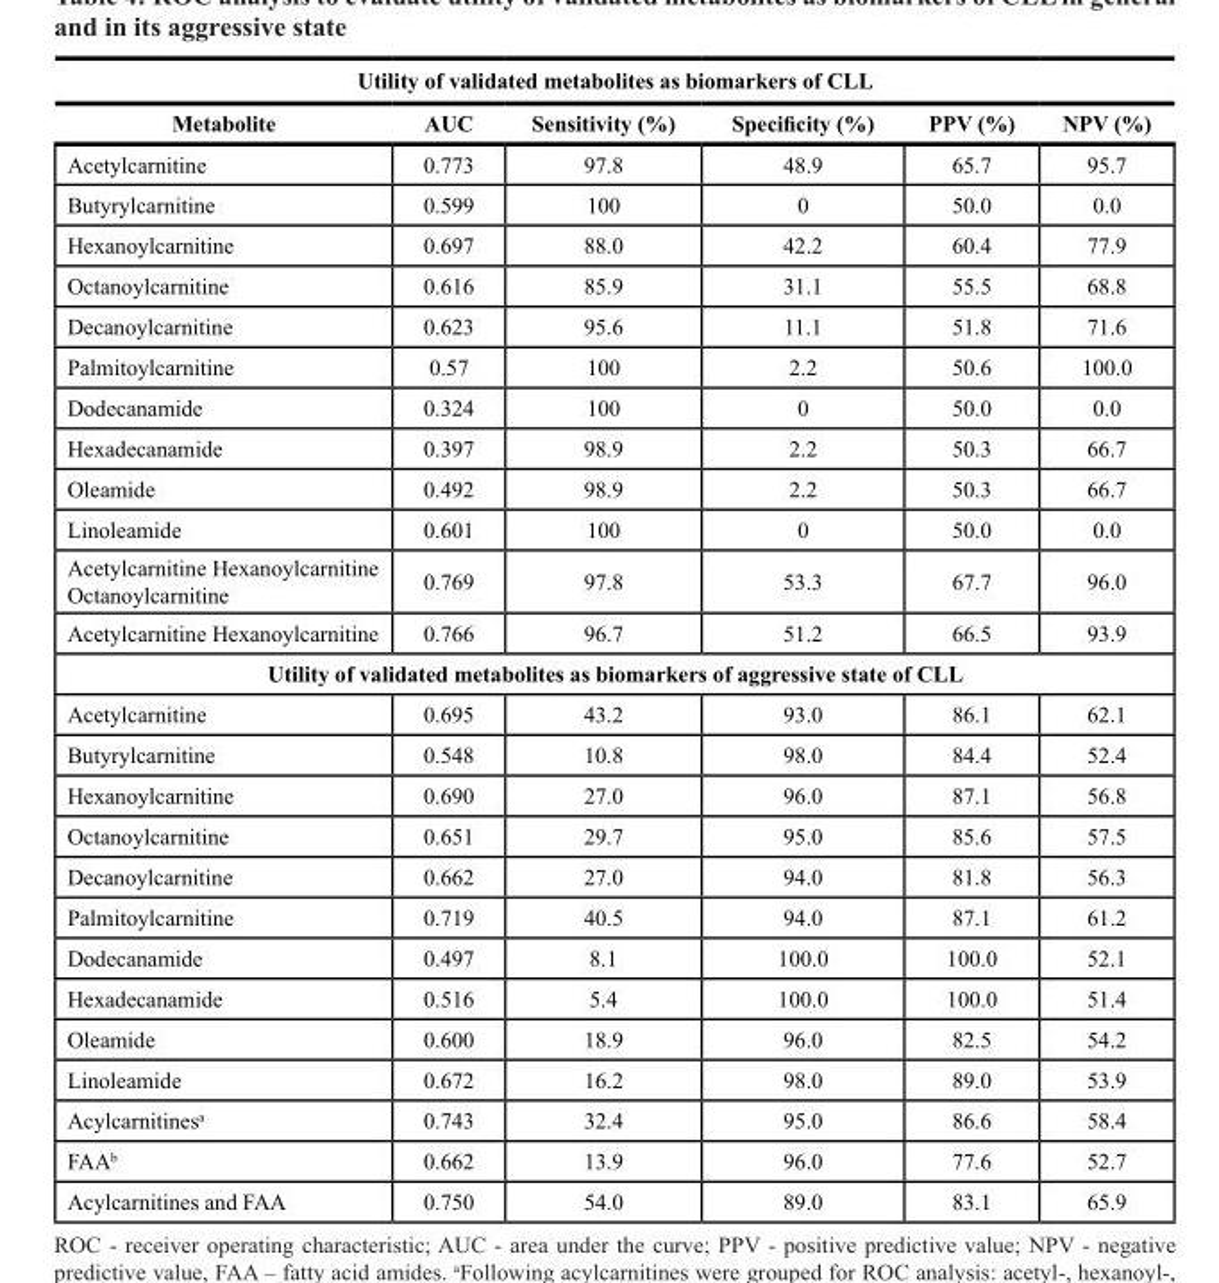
<table><thead><tr><td colspan="6">Utility of validated metabolites as biomarkers of CLL</td></tr><tr><td>Metabolite</td><td>AUC</td><td>Sensitivity (%)</td><td>Specificity (%)</td><td>PPV (%)</td><td>NPV (%)</td></tr></thead><tbody><tr><td>Acetylcarnitine</td><td>0.773</td><td>97.8</td><td>48.9</td><td>65.7</td><td>95.7</td></tr><tr><td>Butyrylcarnitine</td><td>0.599</td><td>100</td><td>0</td><td>50.0</td><td>0.0</td></tr><tr><td>Hexanoylcarnitine</td><td>0.697</td><td>88.0</td><td>42.2</td><td>60.4</td><td>77.9</td></tr><tr><td>Octanoylcarnitine</td><td>0.616</td><td>85.9</td><td>31.1</td><td>55.5</td><td>68.8</td></tr><tr><td>Decanoylcarnitine</td><td>0.623</td><td>95.6</td><td>11.1</td><td>51.8</td><td>71.6</td></tr><tr><td>Palmitoylcarnitine</td><td>0.57</td><td>100</td><td>2.2</td><td>50.6</td><td>100.0</td></tr><tr><td>Dodecanamide</td><td>0.324</td><td>100</td><td>0</td><td>50.0</td><td>0.0</td></tr><tr><td>Hexadecanamide</td><td>0.397</td><td>98.9</td><td>2.2</td><td>50.3</td><td>66.7</td></tr><tr><td>Oleamide</td><td>0.492</td><td>98.9</td><td>2.2</td><td>50.3</td><td>66.7</td></tr><tr><td>Linoleamide</td><td>0.601</td><td>100</td><td>0</td><td>50.0</td><td>0.0</td></tr><tr><td>Acetylcarnitine Hexanoylcarnitine Octanoylcarnitine</td><td>0.769</td><td>97.8</td><td>53.3</td><td>67.7</td><td>96.0</td></tr><tr><td>Acetylcarnitine Hexanoylcarnitine</td><td>0.766</td><td>96.7</td><td>51.2</td><td>66.5</td><td>93.9</td></tr><tr><td colspan="6">Utility of validated metabolites as biomarkers of aggressive state of CLL</td></tr><tr><td>Acetylcarnitine</td><td>0.695</td><td>43.2</td><td>93.0</td><td>86.1</td><td>62.1</td></tr><tr><td>Butyrylcarnitine</td><td>0.548</td><td>10.8</td><td>98.0</td><td>84.4</td><td>52.4</td></tr><tr><td>Hexanoylcarnitine</td><td>0.690</td><td>27.0</td><td>96.0</td><td>87.1</td><td>56.8</td></tr><tr><td>Octanoylcarnitine</td><td>0.651</td><td>29.7</td><td>95.0</td><td>85.6</td><td>57.5</td></tr><tr><td>Decanoylcarnitine</td><td>0.662</td><td>27.0</td><td>94.0</td><td>81.8</td><td>56.3</td></tr><tr><td>Palmitoylcarnitine</td><td>0.719</td><td>40.5</td><td>94.0</td><td>87.1</td><td>61.2</td></tr><tr><td>Dodecanamide</td><td>0.497</td><td>8.1</td><td>100.0</td><td>100.0</td><td>52.1</td></tr><tr><td>Hexadecanamide</td><td>0.516</td><td>5.4</td><td>100.0</td><td>100.0</td><td>51.4</td></tr><tr><td>Oleamide</td><td>0.600</td><td>18.9</td><td>96.0</td><td>82.5</td><td>54.2</td></tr><tr><td>Linoleamide</td><td>0.672</td><td>16.2</td><td>98.0</td><td>89.0</td><td>53.9</td></tr><tr><td>Acylcarnitines<sup>a</sup></td><td>0.743</td><td>32.4</td><td>95.0</td><td>86.6</td><td>58.4</td></tr><tr><td>FAA<sup>b</sup></td><td>0.662</td><td>13.9</td><td>96.0</td><td>77.6</td><td>52.7</td></tr><tr><td>Acylcarnitines and FAA</td><td>0.750</td><td>54.0</td><td>89.0</td><td>83.1</td><td>65.9</td></tr></tbody></table>